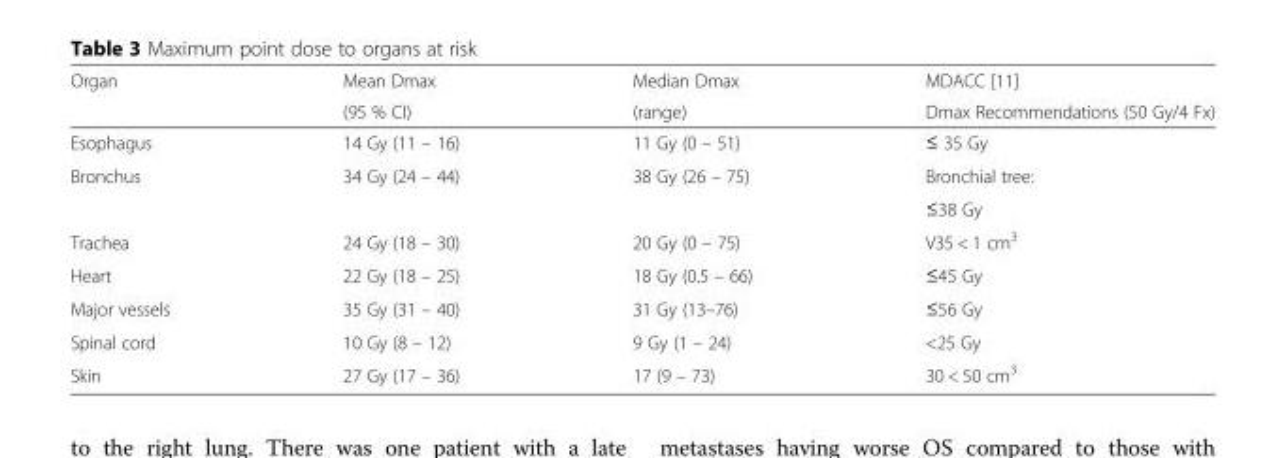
<table><thead><tr><td rowspan="2">Organ</td><td rowspan="2">Mean Dmax (95 % CI)</td><td rowspan="2">Median Dmax (range)</td><td rowspan="2">MDACC [11] Dmax Recommendations (50 Gy/4 Fx)</td></tr><tr></tr></thead><tbody><tr><td>Esophagus</td><td>14 Gy (11 – 16)</td><td>11 Gy (0 – 51)</td><td>≤ 35 Gy</td></tr><tr><td rowspan="2">Bronchus</td><td>34 Gy (24 – 44)</td><td>38 Gy (26 – 75)</td><td>Bronchial tree:</td></tr><tr><td></td><td></td><td>≤38 Gy</td></tr><tr><td>Trachea</td><td>24 Gy (18 – 30)</td><td>20 Gy (0 – 75)</td><td>V35 &lt; 1 cm<sup>3</sup></td></tr><tr><td>Heart</td><td>22 Gy (18 – 25)</td><td>18 Gy (0.5 – 66)</td><td>≤45 Gy</td></tr><tr><td>Major vessels</td><td>35 Gy (31 – 40)</td><td>31 Gy (13–76)</td><td>≤56 Gy</td></tr><tr><td>Spinal cord</td><td>10 Gy (8 – 12)</td><td>9 Gy (1 – 24)</td><td>&lt;25 Gy</td></tr><tr><td>Skin</td><td>27 Gy (17 – 36)</td><td>17 (9 – 73)</td><td>30 &lt; 50 cm<sup>3</sup></td></tr></tbody></table>